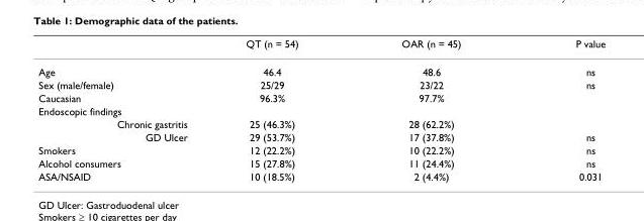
<table><thead><tr><td></td><td>QT (n = 54)</td><td>OAR (n = 45)</td><td>P value</td></tr></thead><tbody><tr><td>Age</td><td>46.4</td><td>48.6</td><td>ns</td></tr><tr><td>Sex (male/female)</td><td>25/29</td><td>23/22</td><td>ns</td></tr><tr><td>Caucasian</td><td>96.3%</td><td>97.7%</td><td></td></tr><tr><td colspan="4">Endoscopic findings</td></tr><tr><td>Chronic gastritis</td><td>25 (46.3%)</td><td>28 (62.2%)</td><td></td></tr><tr><td>GD Ulcer</td><td>29 (53.7%)</td><td>17 (37.8%)</td><td>ns</td></tr><tr><td>Smokers</td><td>12 (22.2%)</td><td>10 (22.2%)</td><td>ns</td></tr><tr><td>Alcohol consumers</td><td>15 (27.8%)</td><td>11 (24.4%)</td><td>ns</td></tr><tr><td>ASA/NSAID</td><td>10 (18.5%)</td><td>2 (4.4%)</td><td>0.031</td></tr></tbody></table>